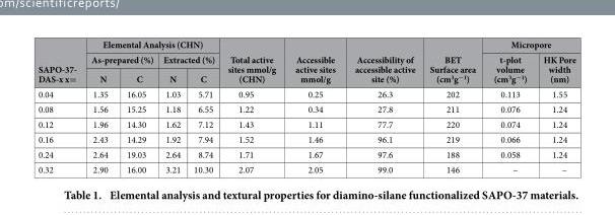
<table><thead><tr><td rowspan="3">SAPO-37- DAS-x x=</td><td colspan="4">Elemental Analysis (CHN)</td><td rowspan="3">Total active sites mmol/g (CHN)</td><td rowspan="3">Accessible active sites mmol/g</td><td rowspan="3">Accessibility of accessible active site (%)</td><td rowspan="3">BET Surface area (cm<sup>3</sup>g<sup>−1</sup>)</td><td colspan="2">Micropore</td></tr><tr><td colspan="2">As-prepared (%)</td><td colspan="2">Extracted (%)</td><td rowspan="2">t-plot volume (cm<sup>3</sup>g<sup>−1</sup>)</td><td rowspan="2">HK Pore width (nm)</td></tr><tr><td>N</td><td>C</td><td>N</td><td>C</td></tr></thead><tbody><tr><td>0.04</td><td>1.35</td><td>16.05</td><td>1.03</td><td>5.71</td><td>0.95</td><td>0.25</td><td>26.3</td><td>202</td><td>0.113</td><td>1.55</td></tr><tr><td>0.08</td><td>1.56</td><td>15.25</td><td>1.18</td><td>6.55</td><td>1.22</td><td>0.34</td><td>27.8</td><td>211</td><td>0.076</td><td>1.24</td></tr><tr><td>0.12</td><td>1.96</td><td>14.30</td><td>1.62</td><td>7.12</td><td>1.43</td><td>1.11</td><td>77.7</td><td>220</td><td>0.074</td><td>1.24</td></tr><tr><td>0.16</td><td>2.43</td><td>14.29</td><td>1.92</td><td>7.94</td><td>1.52</td><td>1.46</td><td>96.1</td><td>219</td><td>0.066</td><td>1.24</td></tr><tr><td>0.24</td><td>2.64</td><td>19.03</td><td>2.64</td><td>8.74</td><td>1.71</td><td>1.67</td><td>97.6</td><td>188</td><td>0.058</td><td>1.24</td></tr><tr><td>0.32</td><td>2.90</td><td>16.00</td><td>3.21</td><td>10.30</td><td>2.07</td><td>2.05</td><td>99.0</td><td>146</td><td>–</td><td>–</td></tr></tbody></table>